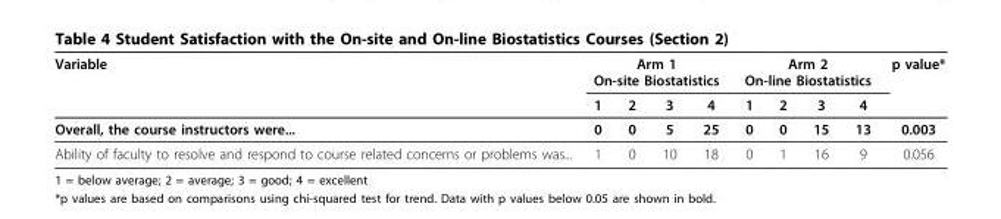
<table><thead><tr><td rowspan="2">Variable</td><td colspan="4">Arm 1 On-site Biostatistics</td><td colspan="4">Arm 2 On-line Biostatistics</td><td rowspan="2">p value*</td></tr><tr><td>1</td><td>2</td><td>3</td><td>4</td><td>1</td><td>2</td><td>3</td><td>4</td></tr></thead><tbody><tr><td>Overall, the course instructors were...</td><td>0</td><td>0</td><td>5</td><td>25</td><td>0</td><td>0</td><td>15</td><td>13</td><td>0.003</td></tr><tr><td>Ability of faculty to resolve and respond to course related concerns or problems was...</td><td>1</td><td>0</td><td>10</td><td>18</td><td>0</td><td>1</td><td>16</td><td>9</td><td>0.056</td></tr></tbody></table>